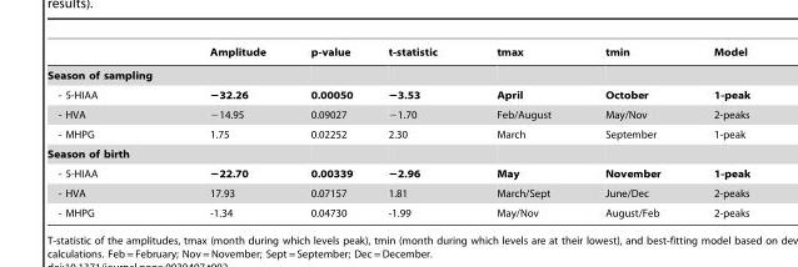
<table><thead><tr><td></td><td>Amplitude</td><td>p-value</td><td>t-statistic</td><td>tmax</td><td>tmin</td><td>Model</td></tr></thead><tbody><tr><td colspan="7">Season of sampling</td></tr><tr><td>- 5-HIAA</td><td>−32.26</td><td>0.00050</td><td>−3.53</td><td>April</td><td>October</td><td>1-peak</td></tr><tr><td>- HVA</td><td>−14.95</td><td>0.09027</td><td>−1.70</td><td>Feb/August</td><td>May/Nov</td><td>2-peaks</td></tr><tr><td>- MHPG</td><td>1.75</td><td>0.02252</td><td>2.30</td><td>March</td><td>September</td><td>1-peak</td></tr><tr><td colspan="7">Season of birth</td></tr><tr><td>- 5-HIAA</td><td>−22.70</td><td>0.00339</td><td>−2.96</td><td>May</td><td>November</td><td>1-peak</td></tr><tr><td>- HVA</td><td>17.93</td><td>0.07157</td><td>1.81</td><td>March/Sept</td><td>June/Dec</td><td>2-peaks</td></tr><tr><td>- MHPG</td><td>-1.34</td><td>0.04730</td><td>-1.99</td><td>May/Nov</td><td>August/Feb</td><td>2-peaks</td></tr></tbody></table>